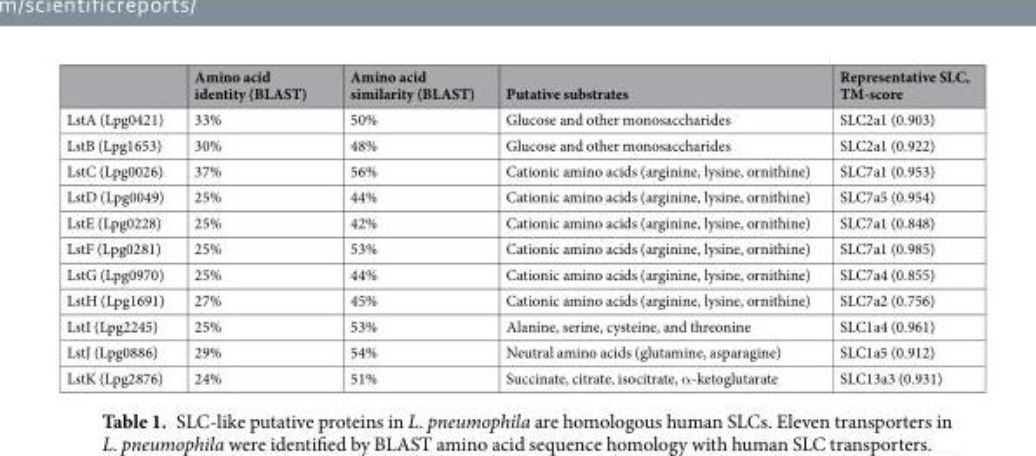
<table><thead><tr><td></td><td>Amino acid identity (BLAST)</td><td>Amino acid similarity (BLAST)</td><td>Putative substrates</td><td>Representative SLC, TM-score</td></tr></thead><tbody><tr><td>LstA (Lpg0421)</td><td>33%</td><td>50%</td><td>Glucose and other monosaccharides</td><td>SLC2a1 (0.903)</td></tr><tr><td>LstB (Lpg1653)</td><td>30%</td><td>48%</td><td>Glucose and other monosaccharides</td><td>SLC2a1 (0.922)</td></tr><tr><td>LstC (Lpg0026)</td><td>37%</td><td>56%</td><td>Cationic amino acids (arginine, lysine, ornithine)</td><td>SLC7a1 (0.953)</td></tr><tr><td>LstD (Lpg0049)</td><td>25%</td><td>44%</td><td>Cationic amino acids (arginine, lysine, ornithine)</td><td>SLC7a5 (0.954)</td></tr><tr><td>LstE (Lpg0228)</td><td>25%</td><td>42%</td><td>Cationic amino acids (arginine, lysine, ornithine)</td><td>SLC7a1 (0.848)</td></tr><tr><td>LstF (Lpg0281)</td><td>25%</td><td>53%</td><td>Cationic amino acids (arginine, lysine, ornithine)</td><td>SLC7a1 (0.985)</td></tr><tr><td>LstG (Lpg0970)</td><td>25%</td><td>44%</td><td>Cationic amino acids (arginine, lysine, ornithine)</td><td>SLC7a4 (0.855)</td></tr><tr><td>LstH (Lpg1691)</td><td>27%</td><td>45%</td><td>Cationic amino acids (arginine, lysine, ornithine)</td><td>SLC7a2 (0.756)</td></tr><tr><td>LstI (Lpg2245)</td><td>25%</td><td>53%</td><td>Alanine, serine, cysteine, and threonine</td><td>SLC1a4 (0.961)</td></tr><tr><td>LstJ (Lpg0886)</td><td>29%</td><td>54%</td><td>Neutral amino acids (glutamine, asparagine)</td><td>SLC1a5 (0.912)</td></tr><tr><td>LstK (Lpg2876)</td><td>24%</td><td>51%</td><td>Succinate, citrate, isocitrate, α-ketoglutarate</td><td>SLC13a3 (0.931)</td></tr></tbody></table>